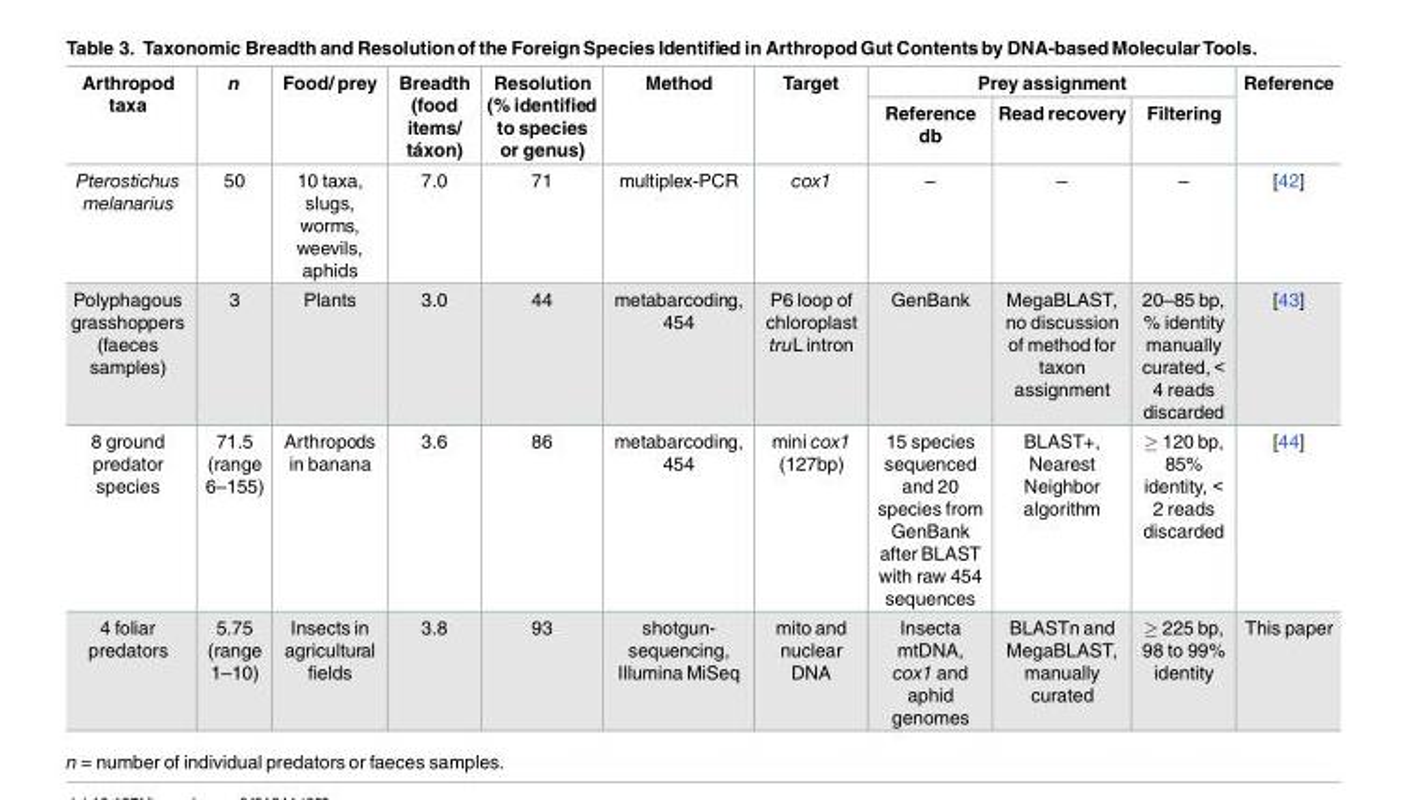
<table><thead><tr><td rowspan="2">Arthropod taxa</td><td rowspan="2">n</td><td rowspan="2">Food/ prey</td><td rowspan="2">Breadth (food items/ táxon)</td><td rowspan="2">Resolution (% identified to species or genus)</td><td rowspan="2">Method</td><td rowspan="2">Target</td><td colspan="3">Prey assignment</td><td rowspan="2">Reference</td></tr><tr><td>Reference db</td><td>Read recovery</td><td>Filtering</td></tr></thead><tbody><tr><td>Pterostichus melanarius</td><td>50</td><td>10 taxa, slugs, worms, weevils, aphids</td><td>7.0</td><td>71</td><td>multiplex-PCR</td><td>cox1</td><td>–</td><td>–</td><td>–</td><td>[42]</td></tr><tr><td>Polyphagous grasshoppers (faeces samples)</td><td>3</td><td>Plants</td><td>3.0</td><td>44</td><td>metabarcoding, 454</td><td>P6 loop of chloroplast truL intron</td><td>GenBank</td><td>MegaBLAST, no discussion of method for taxon assignment</td><td>20–85 bp, % identity manually curated, &lt; 4 reads discarded</td><td>[43]</td></tr><tr><td>8 ground predator species</td><td>71.5 (range 6–155)</td><td>Arthropods in banana</td><td>3.6</td><td>86</td><td>metabarcoding, 454</td><td>mini cox1 (127bp)</td><td>15 species sequenced and 20 species from GenBank after BLAST with raw 454 sequences</td><td>BLAST+, Nearest Neighbor algorithm</td><td>≥ 120 bp, 85% identity, &lt; 2 reads discarded</td><td>[44]</td></tr><tr><td>4 foliar predators</td><td>5.75 (range 1–10)</td><td>Insects in agricultural fields</td><td>3.8</td><td>93</td><td>shotgun- sequencing, Illumina MiSeq</td><td>mito and nuclear DNA</td><td>Insecta mtDNA, cox1 and aphid genomes</td><td>BLASTn and MegaBLAST, manually curated</td><td>≥ 225 bp, 98 to 99% identity</td><td>This paper</td></tr></tbody></table>